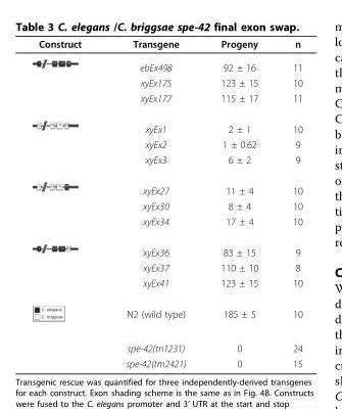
<table><thead><tr><td>Construct</td><td>Transgene</td><td>Progeny</td><td>n</td></tr></thead><tbody><tr><td></td><td>ebEx498</td><td>92 ± 16</td><td>11</td></tr><tr><td></td><td>xyEx175</td><td>123 ± 15</td><td>10</td></tr><tr><td></td><td>xyEx177</td><td>115 ± 17</td><td>11</td></tr><tr><td></td><td>xyEx1</td><td>2 ± 1</td><td>10</td></tr><tr><td></td><td>xyEx2</td><td>1 ± 0.62</td><td>9</td></tr><tr><td></td><td>xyEx3</td><td>6 ± 2</td><td>9</td></tr><tr><td></td><td>xyEx27</td><td>11 ± 4</td><td>10</td></tr><tr><td></td><td>xyEx30</td><td>8 ± 4</td><td>10</td></tr><tr><td></td><td>xyEx34</td><td>17 ± 4</td><td>10</td></tr><tr><td></td><td>xyEx36</td><td>83 ± 15</td><td>9</td></tr><tr><td></td><td>xyEx37</td><td>110 ± 10</td><td>8</td></tr><tr><td></td><td>xyEx41</td><td>123 ± 15</td><td>10</td></tr><tr><td></td><td>N2 (wild type)</td><td>185 ± 5</td><td>10</td></tr><tr><td></td><td>spe-42(tn1231)</td><td>0</td><td>24</td></tr><tr><td></td><td>spe-42(tm2421)</td><td>0</td><td>15</td></tr></tbody></table>